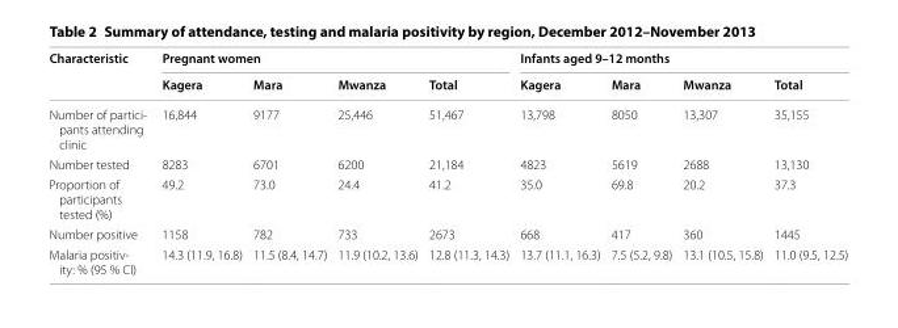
<table><thead><tr><td rowspan="2">Characteristic</td><td colspan="4">Pregnant women</td><td colspan="4">Infants aged 9–12 months</td></tr><tr><td>Kagera</td><td>Mara</td><td>Mwanza</td><td>Total</td><td>Kagera</td><td>Mara</td><td>Mwanza</td><td>Total</td></tr></thead><tbody><tr><td>Number of partici- pants attending clinic</td><td>16,844</td><td>9177</td><td>25,446</td><td>51,467</td><td>13,798</td><td>8050</td><td>13,307</td><td>35,155</td></tr><tr><td>Number tested</td><td>8283</td><td>6701</td><td>6200</td><td>21,184</td><td>4823</td><td>5619</td><td>2688</td><td>13,130</td></tr><tr><td>Proportion of participants tested (%)</td><td>49.2</td><td>73.0</td><td>24.4</td><td>41.2</td><td>35.0</td><td>69.8</td><td>20.2</td><td>37.3</td></tr><tr><td>Number positive</td><td>1158</td><td>782</td><td>733</td><td>2673</td><td>668</td><td>417</td><td>360</td><td>1445</td></tr><tr><td>Malaria positiv- ity: % (95 % CI)</td><td>14.3 (11.9, 16.8)</td><td>11.5 (8.4, 14.7)</td><td>11.9 (10.2, 13.6)</td><td>12.8 (11.3, 14.3)</td><td>13.7 (11.1, 16.3)</td><td>7.5 (5.2, 9.8)</td><td>13.1 (10.5, 15.8)</td><td>11.0 (9.5, 12.5)</td></tr></tbody></table>